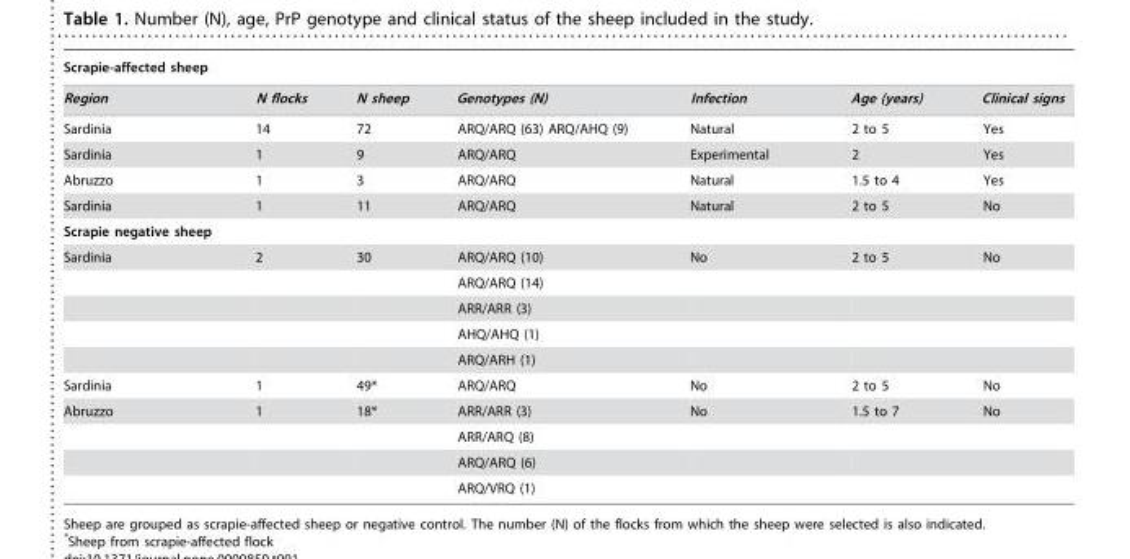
<table><thead><tr><td colspan="7">Scrapie-affected sheep</td></tr><tr><td>Region</td><td>N flocks</td><td>N sheep</td><td>Genotypes (N)</td><td>Infection</td><td>Age (years)</td><td>Clinical signs</td></tr></thead><tbody><tr><td>Sardinia</td><td>14</td><td>72</td><td>ARQ/ARQ (63) ARQ/AHQ (9)</td><td>Natural</td><td>2 to 5</td><td>Yes</td></tr><tr><td>Sardinia</td><td>1</td><td>9</td><td>ARQ/ARQ</td><td>Experimental</td><td>2</td><td>Yes</td></tr><tr><td>Abruzzo</td><td>1</td><td>3</td><td>ARQ/ARQ</td><td>Natural</td><td>1.5 to 4</td><td>Yes</td></tr><tr><td>Sardinia</td><td>1</td><td>11</td><td>ARQ/ARQ</td><td>Natural</td><td>2 to 5</td><td>No</td></tr><tr><td colspan="7">Scrapie negative sheep</td></tr><tr><td rowspan="5">Sardinia</td><td>2</td><td>30</td><td>ARQ/ARQ (10)</td><td>No</td><td>2 to 5</td><td>No</td></tr><tr><td></td><td></td><td>ARQ/ARQ (14)</td><td></td><td></td><td></td></tr><tr><td></td><td></td><td>ARR/ARR (3)</td><td></td><td></td><td></td></tr><tr><td></td><td></td><td>AHQ/AHQ (1)</td><td></td><td></td><td></td></tr><tr><td></td><td></td><td>ARQ/ARH (1)</td><td></td><td></td><td></td></tr><tr><td>Sardinia</td><td>1</td><td>49*</td><td>ARQ/ARQ</td><td>No</td><td>2 to 5</td><td>No</td></tr><tr><td rowspan="4">Abruzzo</td><td>1</td><td>18*</td><td>ARR/ARR (3)</td><td>No</td><td>1.5 to 7</td><td>No</td></tr><tr><td></td><td></td><td>ARR/ARQ (8)</td><td></td><td></td><td></td></tr><tr><td></td><td></td><td>ARQ/ARQ (6)</td><td></td><td></td><td></td></tr><tr><td></td><td></td><td>ARQ/VRQ (1)</td><td></td><td></td><td></td></tr></tbody></table>